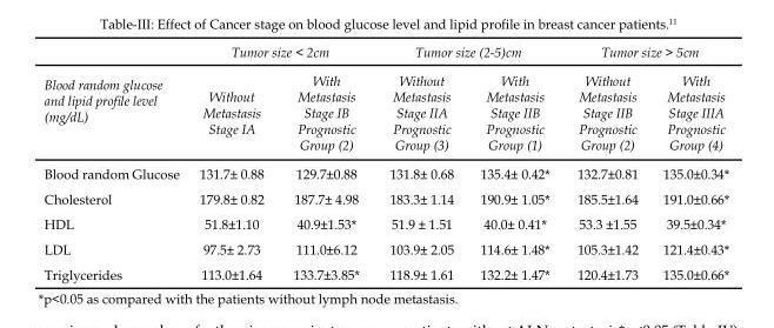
<table><thead><tr><td rowspan="2">Blood random glucose and lipid profile level (mg/dL)</td><td colspan="2">Tumor size &lt; 2cm</td><td colspan="2">Tumor size (2-5)cm</td><td colspan="2">Tumor size &gt; 5cm</td></tr><tr><td>Without Metastasis Stage IA</td><td>With Metastasis Stage IB Prognostic Group (2)</td><td>Without Metastasis Stage IIA Prognostic Group (3)</td><td>With Metastasis Stage IIB Prognostic Group (1)</td><td>Without Metastasis Stage IIB Prognostic Group (2)</td><td>With Metastasis Stage IIIA Prognostic Group (4)</td></tr></thead><tbody><tr><td>Blood random Glucose</td><td>131.7± 0.88</td><td>129.7±0.88</td><td>131.8± 0.68</td><td>135.4± 0.42*</td><td>132.7±0.81</td><td>135.0±0.34*</td></tr><tr><td>Cholesterol</td><td>179.8± 0.82</td><td>187.7± 4.98</td><td>183.3± 1.14</td><td>190.9± 1.05*</td><td>185.5±1.64</td><td>191.0±0.66*</td></tr><tr><td>HDL</td><td>51.8±1.10</td><td>40.9±1.53*</td><td>51.9 ± 1.51</td><td>40.0± 0.41*</td><td>53.3 ±1.55</td><td>39.5±0.34*</td></tr><tr><td>LDL</td><td>97.5± 2.73</td><td>111.0±6.12</td><td>103.9± 2.05</td><td>114.6± 1.48*</td><td>105.3±1.42</td><td>121.4±0.43*</td></tr><tr><td>Triglycerides</td><td>113.0±1.64</td><td>133.7±3.85*</td><td>118.9± 1.61</td><td>132.2± 1.47*</td><td>120.4±1.73</td><td>135.0±0.66*</td></tr></tbody></table>